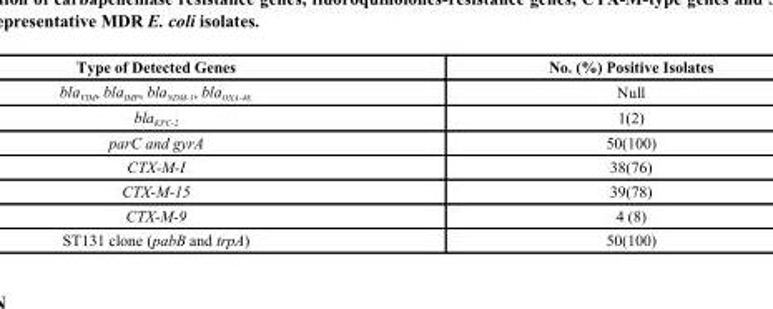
<table><thead><tr><td>Type of Detected Genes</td><td>No. (%) Positive Isolates</td></tr></thead><tbody><tr><td>bla<sub>VIM</sub>, bla<sub>IMP</sub>, bla<sub>NDM-1</sub>, bla<sub>OXA-48,</sub></td><td>Null</td></tr><tr><td>bla<sub>KPC-2</sub></td><td>1(2)</td></tr><tr><td>parC and gyrA</td><td>50(100)</td></tr><tr><td>CTX-M-I</td><td>38(76)</td></tr><tr><td>CTX-M-15</td><td>39(78)</td></tr><tr><td>CTX-M-9</td><td>4 (8)</td></tr><tr><td>ST131 clone (pabB and trpA)</td><td>50(100)</td></tr></tbody></table>